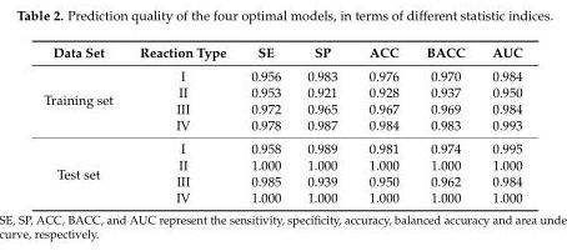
<table><thead><tr><td>Data Set</td><td>Reaction Type</td><td>SE</td><td>SP</td><td>ACC</td><td>BACC</td><td>AUC</td></tr></thead><tbody><tr><td rowspan="4">Training set</td><td>I</td><td>0.956</td><td>0.983</td><td>0.976</td><td>0.970</td><td>0.984</td></tr><tr><td>II</td><td>0.953</td><td>0.921</td><td>0.928</td><td>0.937</td><td>0.950</td></tr><tr><td>III</td><td>0.972</td><td>0.965</td><td>0.967</td><td>0.969</td><td>0.984</td></tr><tr><td>IV</td><td>0.978</td><td>0.987</td><td>0.984</td><td>0.983</td><td>0.993</td></tr><tr><td rowspan="4">Test set</td><td>I</td><td>0.958</td><td>0.989</td><td>0.981</td><td>0.974</td><td>0.995</td></tr><tr><td>II</td><td>1.000</td><td>1.000</td><td>1.000</td><td>1.000</td><td>1.000</td></tr><tr><td>III</td><td>0.985</td><td>0.939</td><td>0.950</td><td>0.962</td><td>0.984</td></tr><tr><td>IV</td><td>1.000</td><td>1.000</td><td>1.000</td><td>1.000</td><td>1.000</td></tr></tbody></table>